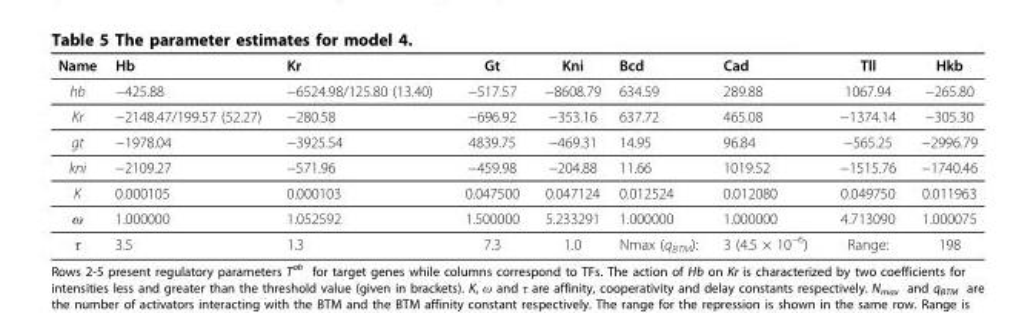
<table><thead><tr><td>Name</td><td>Hb</td><td>Kr</td><td>Gt</td><td>Kni</td><td>Bcd</td><td>Cad</td><td>Tll</td><td>Hkb</td></tr></thead><tbody><tr><td>hb</td><td>−425.88</td><td>−6524.98/125.80 (13.40)</td><td>−517.57</td><td>−8608.79</td><td>634.59</td><td>289.88</td><td>1067.94</td><td>−265.80</td></tr><tr><td>Kr</td><td>−2148.47/199.57 (52.27)</td><td>−280.58</td><td>−696.92</td><td>−353.16</td><td>637.72</td><td>465.08</td><td>−1374.14</td><td>−305.30</td></tr><tr><td>gt</td><td>−1978.04</td><td>−3925.54</td><td>4839.75</td><td>−469.31</td><td>14.95</td><td>96.84</td><td>−565.25</td><td>−2996.79</td></tr><tr><td>kni</td><td>−2109.27</td><td>−571.96</td><td>−459.98</td><td>−204.88</td><td>11.66</td><td>1019.52</td><td>−1515.76</td><td>−1740.46</td></tr><tr><td>K</td><td>0.000105</td><td>0.000103</td><td>0.047500</td><td>0.047124</td><td>0.012524</td><td>0.012080</td><td>0.049750</td><td>0.011963</td></tr><tr><td>ω</td><td>1.000000</td><td>1.052592</td><td>1.500000</td><td>5.233291</td><td>1.000000</td><td>1.000000</td><td>4.713090</td><td>1.000075</td></tr><tr><td>τ</td><td>3.5</td><td>1.3</td><td>7.3</td><td>1.0</td><td>Nmax (q<sub>BTM</sub>):</td><td>3 (4.5 × 10<sup>−6</sup>)</td><td>Range:</td><td>198</td></tr></tbody></table>